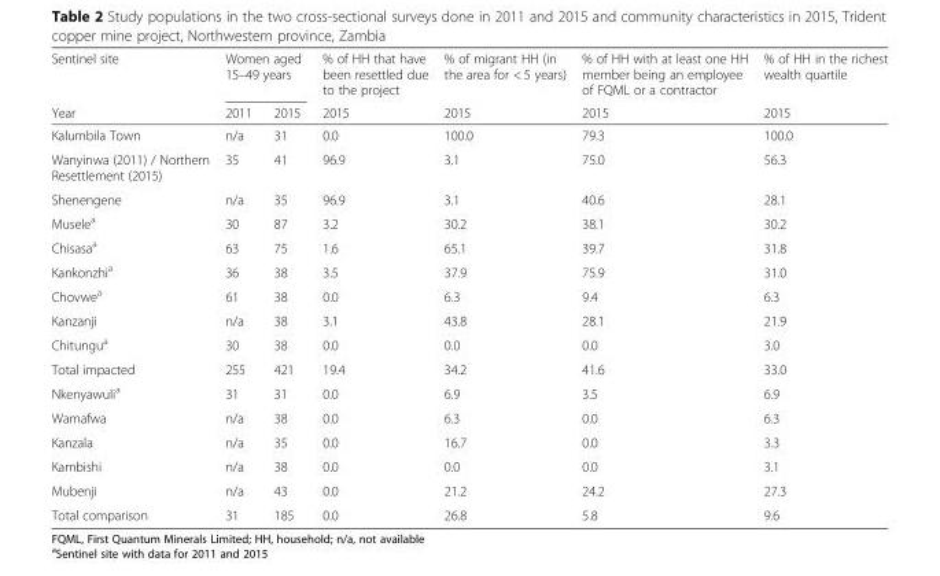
<table><thead><tr><td rowspan="2">Sentinel site Year</td><td colspan="2">Women aged 15–49 years</td><td rowspan="2">% of HH that have been resettled due to the project 2015</td><td rowspan="2">% of migrant HH (in the area for &lt; 5 years) 2015</td><td rowspan="2">% of HH with at least one HH member being an employee of FQML or a contractor 2015</td><td rowspan="2">% of HH in the richest wealth quartile 2015</td></tr><tr><td>2011</td><td>2015</td></tr></thead><tbody><tr><td>Kalumbila Town</td><td>n/a</td><td>31</td><td>0.0</td><td>100.0</td><td>79.3</td><td>100.0</td></tr><tr><td>Wanyinwa (2011) / Northern Resettlement (2015)</td><td>35</td><td>41</td><td>96.9</td><td>3.1</td><td>75.0</td><td>56.3</td></tr><tr><td>Shenengene</td><td>n/a</td><td>35</td><td>96.9</td><td>3.1</td><td>40.6</td><td>28.1</td></tr><tr><td>Musele<sup>a</sup></td><td>30</td><td>87</td><td>3.2</td><td>30.2</td><td>38.1</td><td>30.2</td></tr><tr><td>Chisasa<sup>a</sup></td><td>63</td><td>75</td><td>1.6</td><td>65.1</td><td>39.7</td><td>31.8</td></tr><tr><td>Kankonzhi<sup>a</sup></td><td>36</td><td>38</td><td>3.5</td><td>37.9</td><td>75.9</td><td>31.0</td></tr><tr><td>Chovwe<sup>a</sup></td><td>61</td><td>38</td><td>0.0</td><td>6.3</td><td>9.4</td><td>6.3</td></tr><tr><td>Kanzanji</td><td>n/a</td><td>38</td><td>3.1</td><td>43.8</td><td>28.1</td><td>21.9</td></tr><tr><td>Chitungu<sup>a</sup></td><td>30</td><td>38</td><td>0.0</td><td>0.0</td><td>0.0</td><td>3.0</td></tr><tr><td>Total impacted</td><td>255</td><td>421</td><td>19.4</td><td>34.2</td><td>41.6</td><td>33.0</td></tr><tr><td>Nkenyawuli<sup>a</sup></td><td>31</td><td>31</td><td>0.0</td><td>6.9</td><td>3.5</td><td>6.9</td></tr><tr><td>Wamafwa</td><td>n/a</td><td>38</td><td>0.0</td><td>6.3</td><td>0.0</td><td>6.3</td></tr><tr><td>Kanzala</td><td>n/a</td><td>35</td><td>0.0</td><td>16.7</td><td>0.0</td><td>3.3</td></tr><tr><td>Kambishi</td><td>n/a</td><td>38</td><td>0.0</td><td>0.0</td><td>0.0</td><td>3.1</td></tr><tr><td>Mubenji</td><td>n/a</td><td>43</td><td>0.0</td><td>21.2</td><td>24.2</td><td>27.3</td></tr><tr><td>Total comparison</td><td>31</td><td>185</td><td>0.0</td><td>26.8</td><td>5.8</td><td>9.6</td></tr></tbody></table>